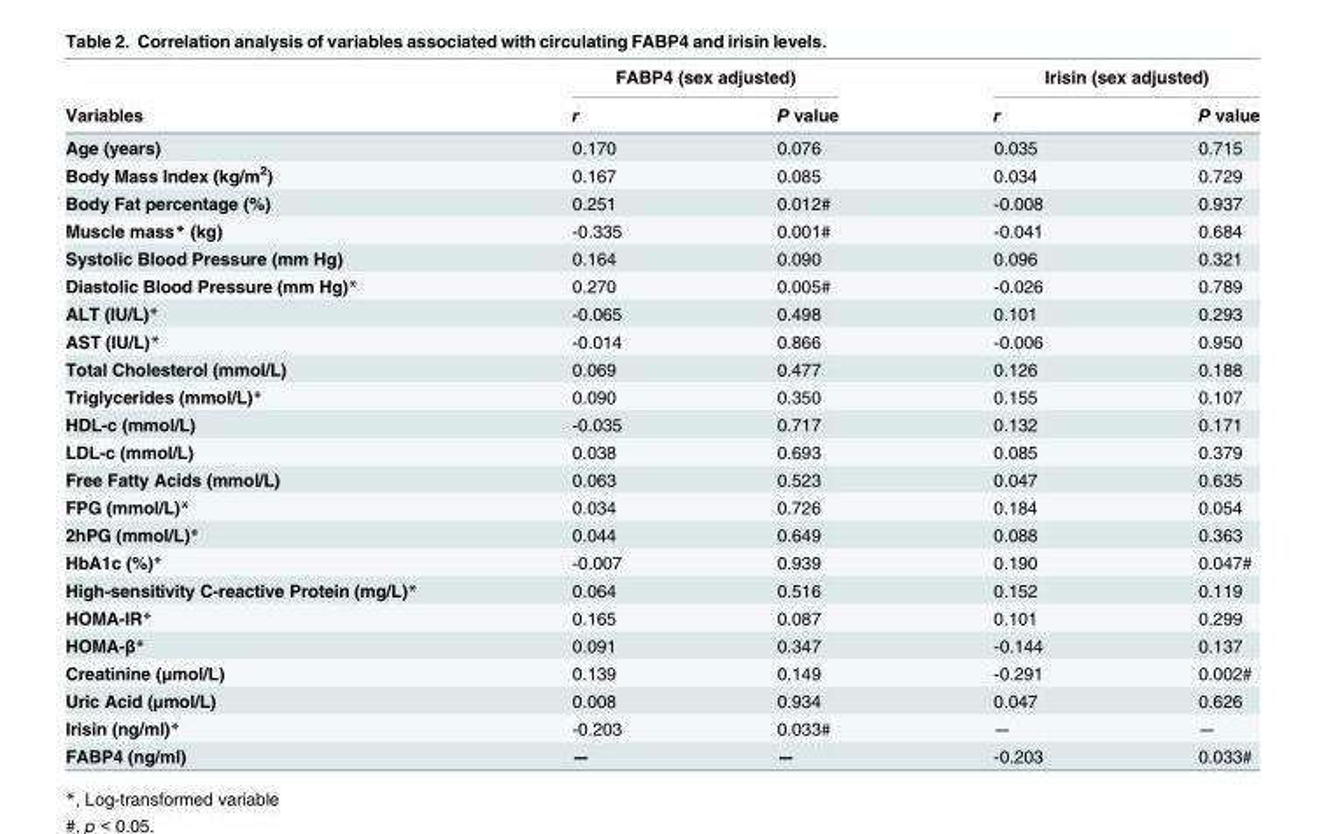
<table><thead><tr><td rowspan="2">Variables</td><td colspan="2">FABP4 (sex adjusted)</td><td colspan="2">Irisin (sex adjusted)</td></tr><tr><td>r</td><td>P value</td><td>r</td><td>P value</td></tr></thead><tbody><tr><td>Age (years)</td><td>0.170</td><td>0.076</td><td>0.035</td><td>0.715</td></tr><tr><td>Body Mass Index (kg/m<sup>2</sup>)</td><td>0.167</td><td>0.085</td><td>0.034</td><td>0.729</td></tr><tr><td>Body Fat percentage (%)</td><td>0.251</td><td>0.012#</td><td>-0.008</td><td>0.937</td></tr><tr><td>Muscle mass* (kg)</td><td>-0.335</td><td>0.001#</td><td>-0.041</td><td>0.684</td></tr><tr><td>Systolic Blood Pressure (mm Hg)</td><td>0.164</td><td>0.090</td><td>0.096</td><td>0.321</td></tr><tr><td>Diastolic Blood Pressure (mm Hg)*</td><td>0.270</td><td>0.005#</td><td>-0.026</td><td>0.789</td></tr><tr><td>ALT (IU/L)*</td><td>-0.065</td><td>0.498</td><td>0.101</td><td>0.293</td></tr><tr><td>AST (IU/L)*</td><td>-0.014</td><td>0.866</td><td>-0.006</td><td>0.950</td></tr><tr><td>Total Cholesterol (mmol/L)</td><td>0.069</td><td>0.477</td><td>0.126</td><td>0.188</td></tr><tr><td>Triglycerides (mmol/L)*</td><td>0.090</td><td>0.350</td><td>0.155</td><td>0.107</td></tr><tr><td>HDL-c (mmol/L)</td><td>-0.035</td><td>0.717</td><td>0.132</td><td>0.171</td></tr><tr><td>LDL-c (mmol/L)</td><td>0.038</td><td>0.693</td><td>0.085</td><td>0.379</td></tr><tr><td>Free Fatty Acids (mmol/L)</td><td>0.063</td><td>0.523</td><td>0.047</td><td>0.635</td></tr><tr><td>FPG (mmol/L)*</td><td>0.034</td><td>0.726</td><td>0.184</td><td>0.054</td></tr><tr><td>2hPG (mmol/L)*</td><td>0.044</td><td>0.649</td><td>0.088</td><td>0.363</td></tr><tr><td>HbA1c (%)*</td><td>-0.007</td><td>0.939</td><td>0.190</td><td>0.047#</td></tr><tr><td>High-sensitivity C-reactive Protein (mg/L)*</td><td>0.064</td><td>0.516</td><td>0.152</td><td>0.119</td></tr><tr><td>HOMA-IR*</td><td>0.165</td><td>0.087</td><td>0.101</td><td>0.299</td></tr><tr><td>HOMA-β*</td><td>0.091</td><td>0.347</td><td>-0.144</td><td>0.137</td></tr><tr><td>Creatinine (μmol/L)</td><td>0.139</td><td>0.149</td><td>-0.291</td><td>0.002#</td></tr><tr><td>Uric Acid (μmol/L)</td><td>0.008</td><td>0.934</td><td>0.047</td><td>0.626</td></tr><tr><td>Irisin (ng/ml)*</td><td>-0.203</td><td>0.033#</td><td>—</td><td>—</td></tr><tr><td>FABP4 (ng/ml)</td><td>—</td><td>—</td><td>-0.203</td><td>0.033#</td></tr></tbody></table>